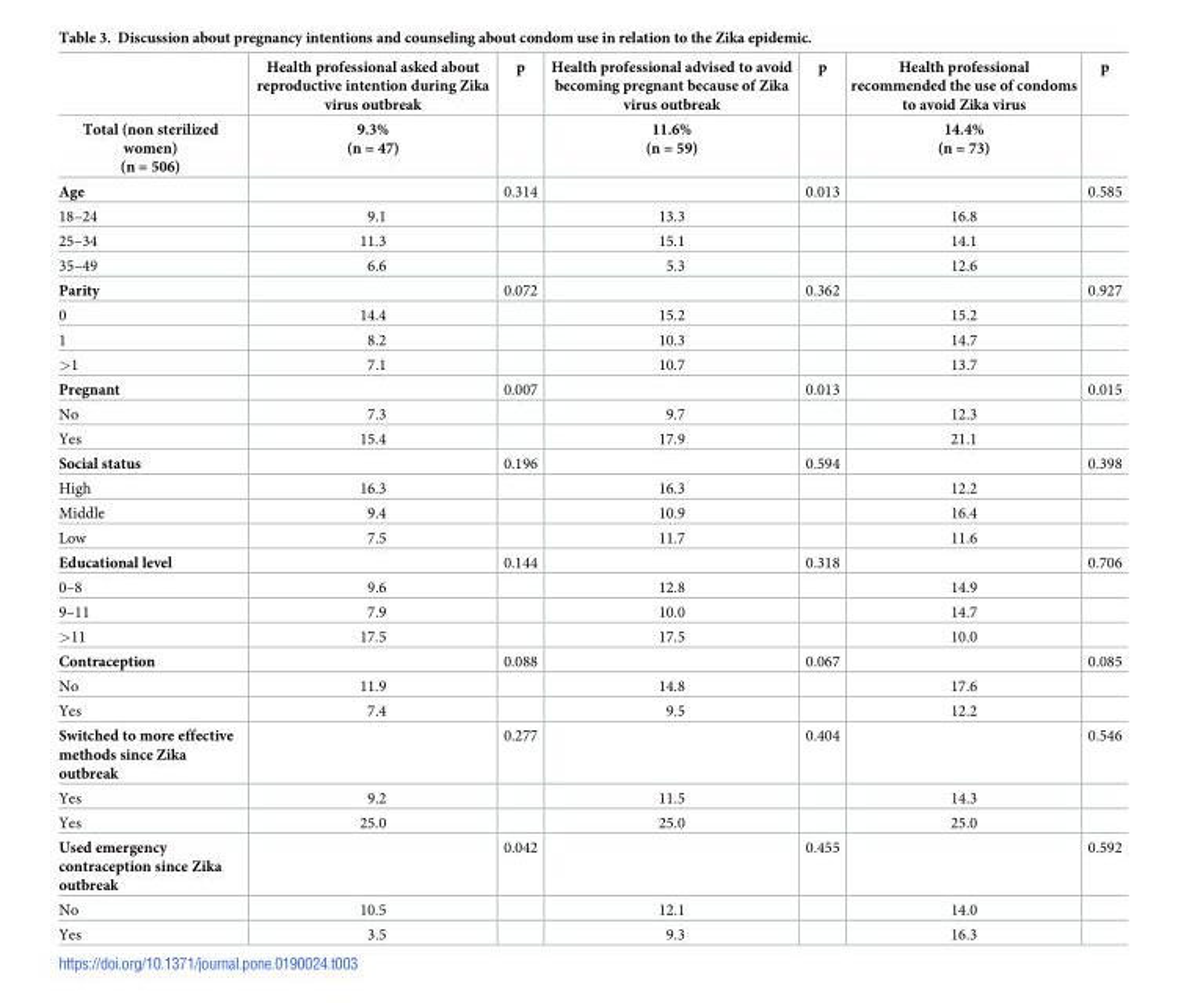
<table><thead><tr><td rowspan="2">Total (non sterilized women) (n = 506)</td><td rowspan="2">Health professional asked about reproductive intention during Zika virus outbreak 9.3% (n = 47)</td><td rowspan="2">p</td><td rowspan="2">Health professional advised to avoid becoming pregnant because of Zika virus outbreak 11.6% (n = 59)</td><td rowspan="2">p</td><td rowspan="2">Health professional recommended the use of condoms to avoid Zika virus 14.4% (n = 73)</td><td rowspan="2">p</td></tr><tr></tr></thead><tbody><tr><td>Age</td><td></td><td>0.314</td><td></td><td>0.013</td><td></td><td>0.585</td></tr><tr><td>18–24</td><td>9.1</td><td></td><td>13.3</td><td></td><td>16.8</td><td></td></tr><tr><td>25–34</td><td>11.3</td><td></td><td>15.1</td><td></td><td>14.1</td><td></td></tr><tr><td>35–49</td><td>6.6</td><td></td><td>5.3</td><td></td><td>12.6</td><td></td></tr><tr><td>Parity</td><td></td><td>0.072</td><td></td><td>0.362</td><td></td><td>0.927</td></tr><tr><td>0</td><td>14.4</td><td></td><td>15.2</td><td></td><td>15.2</td><td></td></tr><tr><td>1</td><td>8.2</td><td></td><td>10.3</td><td></td><td>14.7</td><td></td></tr><tr><td>&gt;1</td><td>7.1</td><td></td><td>10.7</td><td></td><td>13.7</td><td></td></tr><tr><td>Pregnant</td><td></td><td>0.007</td><td></td><td>0.013</td><td></td><td>0.015</td></tr><tr><td>No</td><td>7.3</td><td></td><td>9.7</td><td></td><td>12.3</td><td></td></tr><tr><td>Yes</td><td>15.4</td><td></td><td>17.9</td><td></td><td>21.1</td><td></td></tr><tr><td>Social status</td><td></td><td>0.196</td><td></td><td>0.594</td><td></td><td>0.398</td></tr><tr><td>High</td><td>16.3</td><td></td><td>16.3</td><td></td><td>12.2</td><td></td></tr><tr><td>Middle</td><td>9.4</td><td></td><td>10.9</td><td></td><td>16.4</td><td></td></tr><tr><td>Low</td><td>7.5</td><td></td><td>11.7</td><td></td><td>11.6</td><td></td></tr><tr><td>Educational level</td><td></td><td>0.144</td><td></td><td>0.318</td><td></td><td>0.706</td></tr><tr><td>0–8</td><td>9.6</td><td></td><td>12.8</td><td></td><td>14.9</td><td></td></tr><tr><td>9–11</td><td>7.9</td><td></td><td>10.0</td><td></td><td>14.7</td><td></td></tr><tr><td>&gt;11</td><td>17.5</td><td></td><td>17.5</td><td></td><td>10.0</td><td></td></tr><tr><td>Contraception</td><td></td><td>0.088</td><td></td><td>0.067</td><td></td><td>0.085</td></tr><tr><td>No</td><td>11.9</td><td></td><td>14.8</td><td></td><td>17.6</td><td></td></tr><tr><td>Yes</td><td>7.4</td><td></td><td>9.5</td><td></td><td>12.2</td><td></td></tr><tr><td>Switched to more effective methods since Zika outbreak</td><td></td><td>0.277</td><td></td><td>0.404</td><td></td><td>0.546</td></tr><tr><td>Yes</td><td>9.2</td><td></td><td>11.5</td><td></td><td>14.3</td><td></td></tr><tr><td>Yes</td><td>25.0</td><td></td><td>25.0</td><td></td><td>25.0</td><td></td></tr><tr><td>Used emergency contraception since Zika outbreak</td><td></td><td>0.042</td><td></td><td>0.455</td><td></td><td>0.592</td></tr><tr><td>No</td><td>10.5</td><td></td><td>12.1</td><td></td><td>14.0</td><td></td></tr><tr><td>Yes</td><td>3.5</td><td></td><td>9.3</td><td></td><td>16.3</td><td></td></tr></tbody></table>